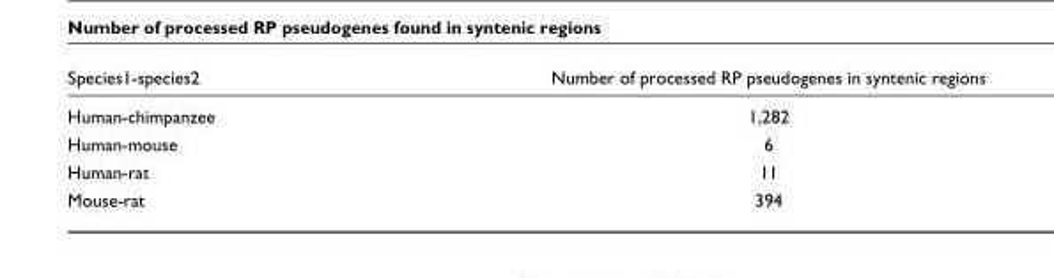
<table><thead><tr><td>Species1-species2</td><td>Number of processed RP pseudogenes in syntenic regions</td></tr></thead><tbody><tr><td>Human-chimpanzee</td><td>1,282</td></tr><tr><td>Human-mouse</td><td>6</td></tr><tr><td>Human-rat</td><td>11</td></tr><tr><td>Mouse-rat</td><td>394</td></tr></tbody></table>